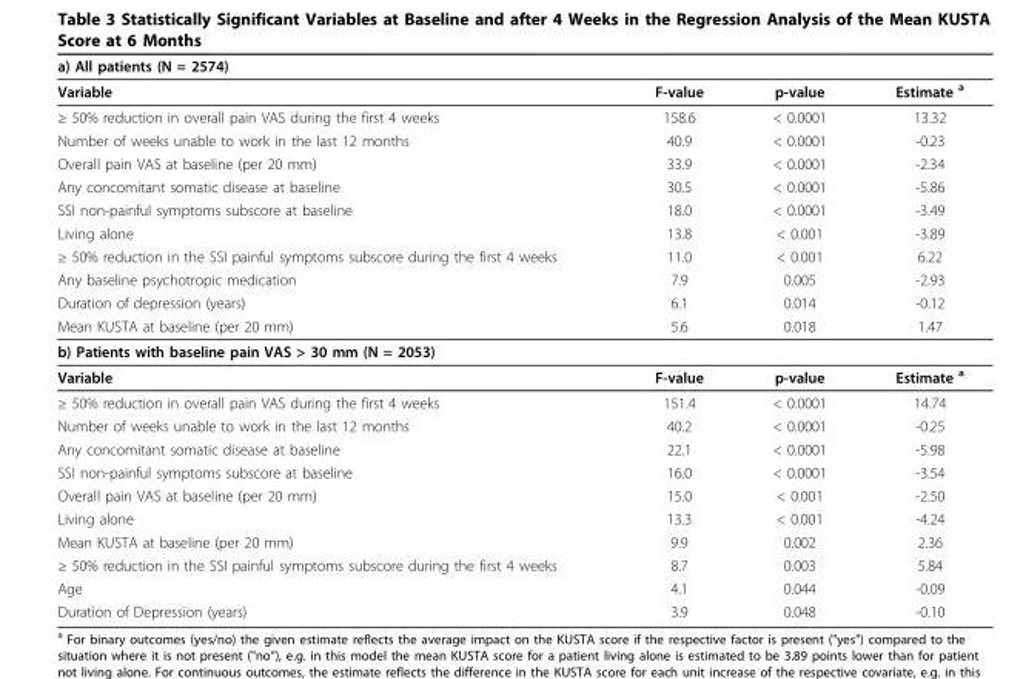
<table><thead><tr><td>a) All patients (N = 2574)</td><td></td><td></td><td></td></tr></thead><tbody><tr><td>Variable</td><td>F-value</td><td>p-value</td><td>Estimate <sup>a</sup></td></tr><tr><td>≥ 50% reduction in overall pain VAS during the first 4 weeks</td><td>158.6</td><td>&lt; 0.0001</td><td>13.32</td></tr><tr><td>Number of weeks unable to work in the last 12 months</td><td>40.9</td><td>&lt; 0.0001</td><td>-0.23</td></tr><tr><td>Overall pain VAS at baseline (per 20 mm)</td><td>33.9</td><td>&lt; 0.0001</td><td>-2.34</td></tr><tr><td>Any concomitant somatic disease at baseline</td><td>30.5</td><td>&lt; 0.0001</td><td>-5.86</td></tr><tr><td>SSI non-painful symptoms subscore at baseline</td><td>18.0</td><td>&lt; 0.0001</td><td>-3.49</td></tr><tr><td>Living alone</td><td>13.8</td><td>&lt; 0.001</td><td>-3.89</td></tr><tr><td>≥ 50% reduction in the SSI painful symptoms subscore during the first 4 weeks</td><td>11.0</td><td>&lt; 0.001</td><td>6.22</td></tr><tr><td>Any baseline psychotropic medication</td><td>7.9</td><td>0.005</td><td>-2.93</td></tr><tr><td>Duration of depression (years)</td><td>6.1</td><td>0.014</td><td>-0.12</td></tr><tr><td>Mean KUSTA at baseline (per 20 mm)</td><td>5.6</td><td>0.018</td><td>1.47</td></tr><tr><td colspan="4">b) Patients with baseline pain VAS &gt; 30 mm (N = 2053)</td></tr><tr><td>Variable</td><td>F-value</td><td>p-value</td><td>Estimate <sup>a</sup></td></tr><tr><td>≥ 50% reduction in overall pain VAS during the first 4 weeks</td><td>151.4</td><td>&lt; 0.0001</td><td>14.74</td></tr><tr><td>Number of weeks unable to work in the last 12 months</td><td>40.2</td><td>&lt; 0.0001</td><td>-0.25</td></tr><tr><td>Any concomitant somatic disease at baseline</td><td>22.1</td><td>&lt; 0.0001</td><td>-5.98</td></tr><tr><td>SSI non-painful symptoms subscore at baseline</td><td>16.0</td><td>&lt; 0.0001</td><td>-3.54</td></tr><tr><td>Overall pain VAS at baseline (per 20 mm)</td><td>15.0</td><td>&lt; 0.001</td><td>-2.50</td></tr><tr><td>Living alone</td><td>13.3</td><td>&lt; 0.001</td><td>-4.24</td></tr><tr><td>Mean KUSTA at baseline (per 20 mm)</td><td>9.9</td><td>0.002</td><td>2.36</td></tr><tr><td>≥ 50% reduction in the SSI painful symptoms subscore during the first 4 weeks</td><td>8.7</td><td>0.003</td><td>5.84</td></tr><tr><td>Age</td><td>4.1</td><td>0.044</td><td>-0.09</td></tr><tr><td>Duration of Depression (years)</td><td>3.9</td><td>0.048</td><td>-0.10</td></tr></tbody></table>